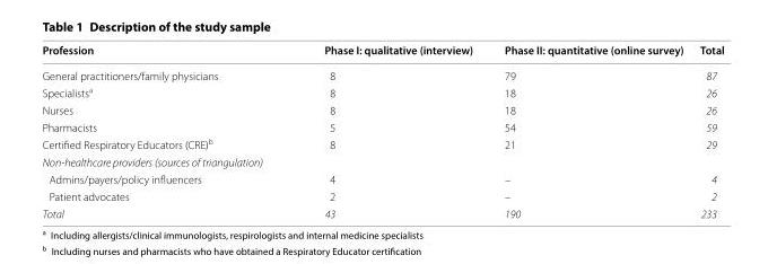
<table><thead><tr><td>Profession</td><td>Phase I: qualitative (interview)</td><td>Phase II: quantitative (online survey)</td><td>Total</td></tr></thead><tbody><tr><td>General practitioners/family physicians</td><td>8</td><td>79</td><td>87</td></tr><tr><td>Specialists<sup>a</sup></td><td>8</td><td>18</td><td>26</td></tr><tr><td>Nurses</td><td>8</td><td>18</td><td>26</td></tr><tr><td>Pharmacists</td><td>5</td><td>54</td><td>59</td></tr><tr><td>Certified Respiratory Educators (CRE)<sup>b</sup></td><td>8</td><td>21</td><td>29</td></tr><tr><td colspan="4">Non-healthcare providers (sources of triangulation)</td></tr><tr><td>Admins/payers/policy influencers</td><td>4</td><td>–</td><td>4</td></tr><tr><td>Patient advocates</td><td>2</td><td>–</td><td>2</td></tr><tr><td>Total</td><td>43</td><td>190</td><td>233</td></tr></tbody></table>